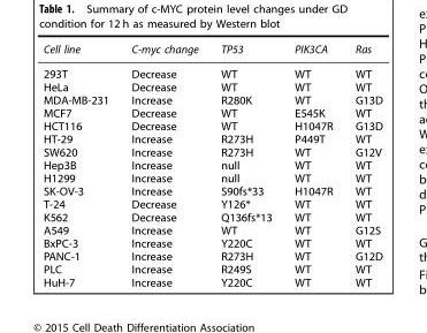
<table><thead><tr><td>Cell line</td><td>C-myc change</td><td>TP53</td><td>PIK3CA</td><td>Ras</td></tr></thead><tbody><tr><td>293T</td><td>Decrease</td><td>WT</td><td>WT</td><td>WT</td></tr><tr><td>HeLa</td><td>Decrease</td><td>WT</td><td>WT</td><td>WT</td></tr><tr><td>MDA-MB-231</td><td>Increase</td><td>R280K</td><td>WT</td><td>G13D</td></tr><tr><td>MCF7</td><td>Decrease</td><td>WT</td><td>E545K</td><td>WT</td></tr><tr><td>HCT116</td><td>Decrease</td><td>WT</td><td>H1047R</td><td>G13D</td></tr><tr><td>HT-29</td><td>Increase</td><td>R273H</td><td>P449T</td><td>WT</td></tr><tr><td>SW620</td><td>Increase</td><td>R273H</td><td>WT</td><td>G12V</td></tr><tr><td>Hep3B</td><td>Increase</td><td>null</td><td>WT</td><td>WT</td></tr><tr><td>H1299</td><td>Increase</td><td>null</td><td>WT</td><td>WT</td></tr><tr><td>SK-OV-3</td><td>Increase</td><td>S90fs*33</td><td>H1047R</td><td>WT</td></tr><tr><td>T-24</td><td>Decrease</td><td>Y126*</td><td>WT</td><td>WT</td></tr><tr><td>K562</td><td>Decrease</td><td>Q136fs*13</td><td>WT</td><td>WT</td></tr><tr><td>A549</td><td>Increase</td><td>WT</td><td>WT</td><td>G12S</td></tr><tr><td>BxPC-3</td><td>Increase</td><td>Y220C</td><td>WT</td><td>WT</td></tr><tr><td>PANC-1</td><td>Increase</td><td>R273H</td><td>WT</td><td>G12D</td></tr><tr><td>PLC</td><td>Increase</td><td>R249S</td><td>WT</td><td>WT</td></tr><tr><td>HuH-7</td><td>Increase</td><td>Y220C</td><td>WT</td><td>WT</td></tr></tbody></table>